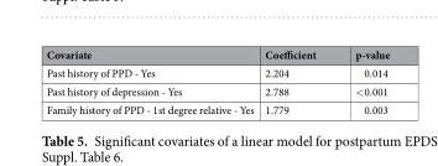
<table><thead><tr><td>Covariate</td><td>Coefficient</td><td>p-value</td></tr></thead><tbody><tr><td>Past history of PPD - Yes</td><td>2.204</td><td>0.014</td></tr><tr><td>Past history of depression - Yes</td><td>2.788</td><td>&lt;0.001</td></tr><tr><td>Family history of PPD - 1st degree relative - Yes</td><td>1.779</td><td>0.003</td></tr></tbody></table>